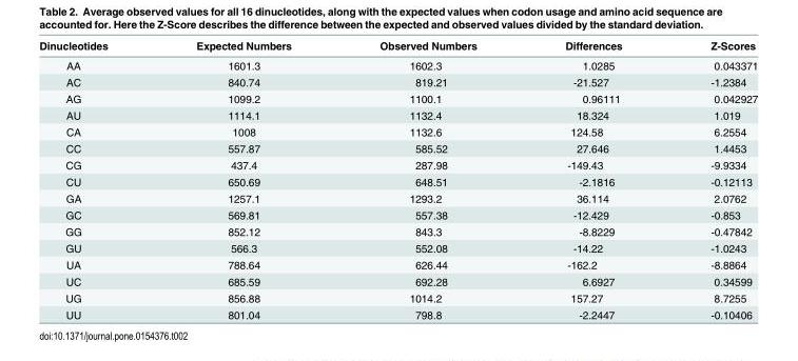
<table><thead><tr><td>Dinucleotides</td><td>Expected Numbers</td><td>Observed Numbers</td><td>Differences</td><td>Z-Scores</td></tr></thead><tbody><tr><td>AA</td><td>1601.3</td><td>1602.3</td><td>1.0285</td><td>0.043371</td></tr><tr><td>AC</td><td>840.74</td><td>819.21</td><td>-21.527</td><td>-1.2384</td></tr><tr><td>AG</td><td>1099.2</td><td>1100.1</td><td>0.96111</td><td>0.042927</td></tr><tr><td>AU</td><td>1114.1</td><td>1132.4</td><td>18.324</td><td>1.019</td></tr><tr><td>CA</td><td>1008</td><td>1132.6</td><td>124.58</td><td>6.2554</td></tr><tr><td>CC</td><td>557.87</td><td>585.52</td><td>27.646</td><td>1.4453</td></tr><tr><td>CG</td><td>437.4</td><td>287.98</td><td>-149.43</td><td>-9.9334</td></tr><tr><td>CU</td><td>650.69</td><td>648.51</td><td>-2.1816</td><td>-0.12113</td></tr><tr><td>GA</td><td>1257.1</td><td>1293.2</td><td>36.114</td><td>2.0762</td></tr><tr><td>GC</td><td>569.81</td><td>557.38</td><td>-12.429</td><td>-0.853</td></tr><tr><td>GG</td><td>852.12</td><td>843.3</td><td>-8.8229</td><td>-0.47842</td></tr><tr><td>GU</td><td>566.3</td><td>552.08</td><td>-14.22</td><td>-1.0243</td></tr><tr><td>UA</td><td>788.64</td><td>626.44</td><td>-162.2</td><td>-8.8864</td></tr><tr><td>UC</td><td>685.59</td><td>692.28</td><td>6.6927</td><td>0.34599</td></tr><tr><td>UG</td><td>856.88</td><td>1014.2</td><td>157.27</td><td>8.7255</td></tr><tr><td>UU</td><td>801.04</td><td>798.8</td><td>-2.2447</td><td>-0.10406</td></tr></tbody></table>